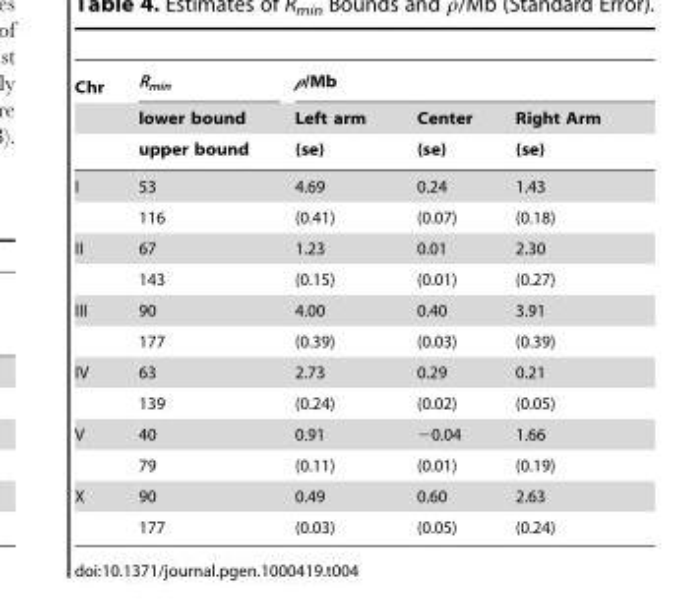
<table><thead><tr><td rowspan="3">Chr</td><td rowspan="3">R<sub>min</sub> lower bound upper bound</td><td colspan="3">ρ/Mb</td></tr><tr><td rowspan="2">Left arm (se)</td><td rowspan="2">Center (se)</td><td rowspan="2">Right Arm (se)</td></tr><tr></tr></thead><tbody><tr><td rowspan="2">I</td><td>53</td><td>4.69</td><td>0.24</td><td>1.43</td></tr><tr><td>116</td><td>(0.41)</td><td>(0.07)</td><td>(0.18)</td></tr><tr><td rowspan="2">II</td><td>67</td><td>1.23</td><td>0.01</td><td>2.30</td></tr><tr><td>143</td><td>(0.15)</td><td>(0.01)</td><td>(0.27)</td></tr><tr><td rowspan="2">III</td><td>90</td><td>4.00</td><td>0.40</td><td>3.91</td></tr><tr><td>177</td><td>(0.39)</td><td>(0.03)</td><td>(0.39)</td></tr><tr><td rowspan="2">IV</td><td>63</td><td>2.73</td><td>0.29</td><td>0.21</td></tr><tr><td>139</td><td>(0.24)</td><td>(0.02)</td><td>(0.05)</td></tr><tr><td rowspan="2">V</td><td>40</td><td>0.91</td><td>−0.04</td><td>1.66</td></tr><tr><td>79</td><td>(0.11)</td><td>(0.01)</td><td>(0.19)</td></tr><tr><td rowspan="2">X</td><td>90</td><td>0.49</td><td>0.60</td><td>2.63</td></tr><tr><td>177</td><td>(0.03)</td><td>(0.05)</td><td>(0.24)</td></tr></tbody></table>